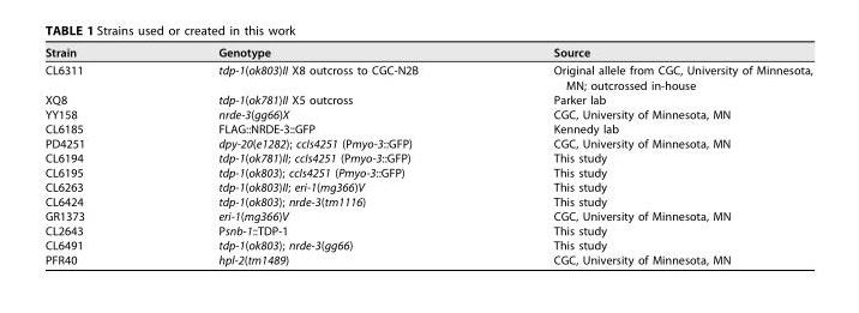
<table><thead><tr><td>Strain</td><td>Genotype</td><td>Source</td></tr></thead><tbody><tr><td>CL6311</td><td>tdp-1(ok803)II X8 outcross to CGC-N2B</td><td>Original allele from CGC, University of Minnesota, MN; outcrossed in-house</td></tr><tr><td>XQ8</td><td>tdp-1(ok781)II X5 outcross</td><td>Parker lab</td></tr><tr><td>YY158</td><td>nrde-3(gg66)X</td><td>CGC, University of Minnesota, MN</td></tr><tr><td>CL6185</td><td>FLAG::NRDE-3::GFP</td><td>Kennedy lab</td></tr><tr><td>PD4251</td><td>dpy-20(e1282); ccIs4251 (Pmyo-3::GFP)</td><td>CGC, University of Minnesota, MN</td></tr><tr><td>CL6194</td><td>tdp-1(ok781)II; ccIs4251 (Pmyo-3::GFP)</td><td>This study</td></tr><tr><td>CL6195</td><td>tdp-1(ok803); ccIs4251 (Pmyo-3::GFP)</td><td>This study</td></tr><tr><td>CL6263</td><td>tdp-1(ok803)II; eri-1(mg366)V</td><td>This study</td></tr><tr><td>CL6424</td><td>tdp-1(ok803); nrde-3(tm1116)</td><td>This study</td></tr><tr><td>GR1373</td><td>eri-1(mg366)V</td><td>CGC, University of Minnesota, MN</td></tr><tr><td>CL2643</td><td>Psnb-1::TDP-1</td><td>This study</td></tr><tr><td>CL6491</td><td>tdp-1(ok803); nrde-3(gg66)</td><td>This study</td></tr><tr><td>PFR40</td><td>hpl-2(tm1489)</td><td>CGC, University of Minnesota, MN</td></tr></tbody></table>